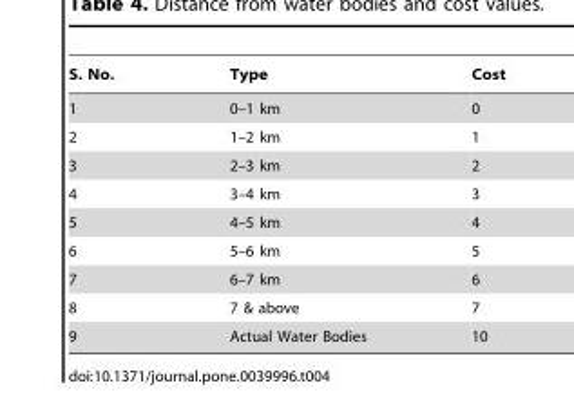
<table><thead><tr><td>S. No.</td><td>Type</td><td>Cost</td></tr></thead><tbody><tr><td>1</td><td>0–1 km</td><td>0</td></tr><tr><td>2</td><td>1–2 km</td><td>1</td></tr><tr><td>3</td><td>2–3 km</td><td>2</td></tr><tr><td>4</td><td>3–4 km</td><td>3</td></tr><tr><td>5</td><td>4–5 km</td><td>4</td></tr><tr><td>6</td><td>5–6 km</td><td>5</td></tr><tr><td>7</td><td>6–7 km</td><td>6</td></tr><tr><td>8</td><td>7 &amp; above</td><td>7</td></tr><tr><td>9</td><td>Actual Water Bodies</td><td>10</td></tr></tbody></table>